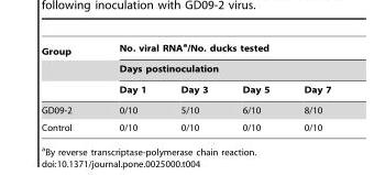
<table><thead><tr><td rowspan="3">Group</td><td rowspan="2" colspan="4">No. viral RNA<sup>a</sup>/No. ducks tested Days postinoculation</td></tr><tr></tr><tr><td>Day 1</td><td>Day 3</td><td>Day 5</td><td>Day 7</td></tr></thead><tbody><tr><td>GD09-2</td><td>0/10</td><td>5/10</td><td>6/10</td><td>8/10</td></tr><tr><td>Control</td><td>0/10</td><td>0/10</td><td>0/10</td><td>0/10</td></tr></tbody></table>